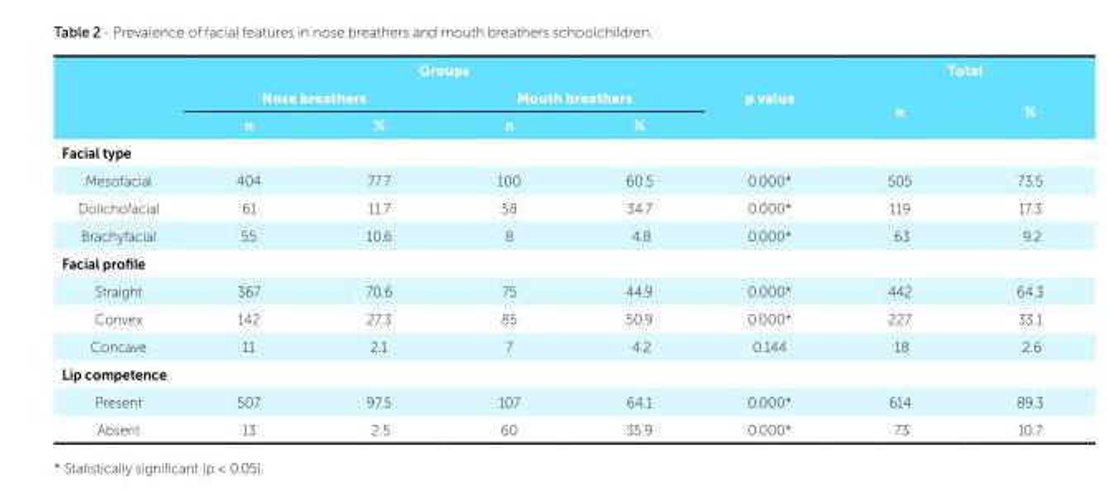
<table><thead><tr><td rowspan="3"></td><td colspan="4">Groups</td><td rowspan="3">p value</td><td colspan="2">Total</td></tr><tr><td colspan="2">Nose breathers</td><td colspan="2">Mouth breathers</td><td rowspan="2">n</td><td rowspan="2">%</td></tr><tr><td>n</td><td>%</td><td>n</td><td>%</td></tr></thead><tbody><tr><td colspan="8">Facial type</td></tr><tr><td>Mesofacial</td><td>404</td><td>77.7</td><td>100</td><td>60.5</td><td>0.000*</td><td>505</td><td>73.5</td></tr><tr><td>Dolichofacial</td><td>61</td><td>11.7</td><td>58</td><td>34.7</td><td>0.000*</td><td>119</td><td>17.3</td></tr><tr><td>Brachyfacial</td><td>55</td><td>10.6</td><td>8</td><td>4.8</td><td>0.000*</td><td>63</td><td>9.2</td></tr><tr><td colspan="8">Facial profile</td></tr><tr><td>Straight</td><td>367</td><td>70.6</td><td>75</td><td>44.9</td><td>0.000*</td><td>442</td><td>64.3</td></tr><tr><td>Convex</td><td>142</td><td>27.3</td><td>85</td><td>50.9</td><td>0.000*</td><td>227</td><td>33.1</td></tr><tr><td>Concave</td><td>11</td><td>2.1</td><td>7</td><td>4.2</td><td>0.144</td><td>18</td><td>2.6</td></tr><tr><td colspan="8">Lip competence</td></tr><tr><td>Present</td><td>507</td><td>97.5</td><td>107</td><td>64.1</td><td>0.000*</td><td>614</td><td>89.3</td></tr><tr><td>Absent</td><td>13</td><td>2.5</td><td>60</td><td>35.9</td><td>0.000*</td><td>73</td><td>10.7</td></tr></tbody></table>